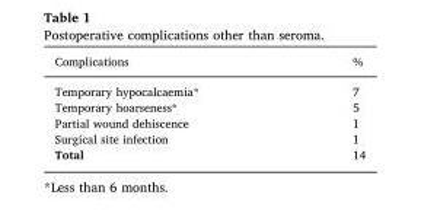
<table><thead><tr><td>Complications</td><td>%</td></tr></thead><tbody><tr><td>Temporary hypocalcaemia*</td><td>7</td></tr><tr><td>Temporary hoarseness*</td><td>5</td></tr><tr><td>Partial wound dehiscence</td><td>1</td></tr><tr><td>Surgical site infection</td><td>1</td></tr><tr><td>Total</td><td>14</td></tr></tbody></table>